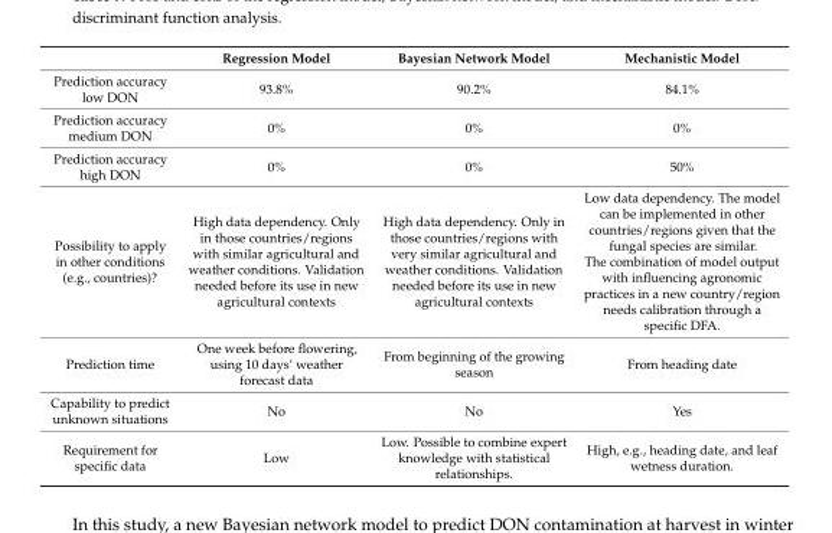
<table><thead><tr><td></td><td>Regression Model</td><td>Bayesian Network Model</td><td>Mechanistic Model</td></tr></thead><tbody><tr><td>Prediction accuracy low DON</td><td>93.8%</td><td>90.2%</td><td>84.1%</td></tr><tr><td>Prediction accuracy medium DON</td><td>0%</td><td>0%</td><td>0%</td></tr><tr><td>Prediction accuracy high DON</td><td>0%</td><td>0%</td><td>50%</td></tr><tr><td>Possibility to apply in other conditions (e.g., countries)?</td><td>High data dependency. Only in those countries/regions with similar agricultural and weather conditions. Validation needed before its use in new agricultural contexts</td><td>High data dependency. Only in those countries/regions with very similar agricultural and weather conditions. Validation needed before its use in new agricultural contexts</td><td>Low data dependency. The model can be implemented in other countries/regions given that the fungal species are similar. The combination of model output with influencing agronomic practices in a new country/region needs calibration through a specific DFA.</td></tr><tr><td>Prediction time</td><td>One week before flowering, using 10 days’ weather forecast data</td><td>From beginning of the growing season</td><td>From heading date</td></tr><tr><td>Capability to predict unknown situations</td><td>No</td><td>No</td><td>Yes</td></tr><tr><td>Requirement for specific data</td><td>Low</td><td>Low. Possible to combine expert knowledge with statistical relationships.</td><td>High, e.g., heading date, and leaf wetness duration.</td></tr></tbody></table>